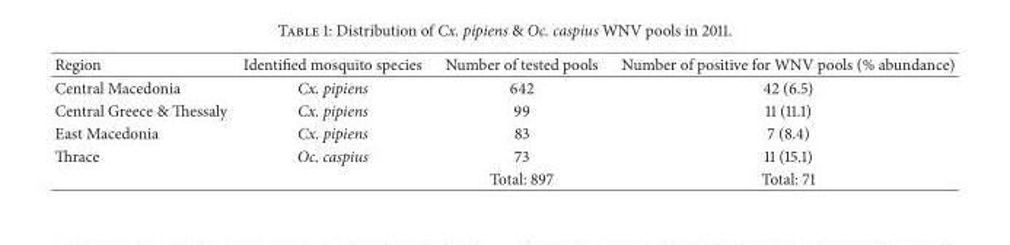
<table><thead><tr><td>Region</td><td>Identified mosquito species</td><td>Number of tested pools</td><td>Number of positive for WNV pools (% abundance)</td></tr></thead><tbody><tr><td>Central Macedonia</td><td>Cx. pipiens</td><td>642</td><td>42 (6.5)</td></tr><tr><td>Central Greece &amp; Thessaly</td><td>Cx. pipiens</td><td>99</td><td>11 (11.1)</td></tr><tr><td>East Macedonia</td><td>Cx. pipiens</td><td>83</td><td>7 (8.4)</td></tr><tr><td rowspan="2">Thrace</td><td>Oc. caspius</td><td>73</td><td>11 (15.1)</td></tr><tr><td></td><td>Total: 897</td><td>Total: 71</td></tr></tbody></table>